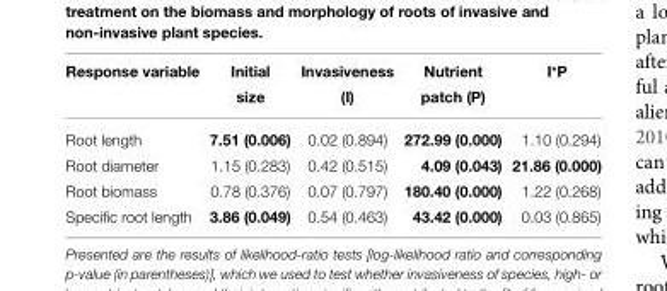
<table><thead><tr><td>Response variable</td><td>Initial size</td><td>Invasiveness (I)</td><td>Nutrient patch (P)</td><td>I*P</td></tr></thead><tbody><tr><td>Root length</td><td>7.51 (0.006)</td><td>0.02 (0.894)</td><td>272.99 (0.000)</td><td>1.10 (0.294)</td></tr><tr><td>Root diameter</td><td>1.15 (0.283)</td><td>0.42 (0.515)</td><td>4.09 (0.043)</td><td>21.86 (0.000)</td></tr><tr><td>Root biomass</td><td>0.78 (0.376)</td><td>0.07 (0.797)</td><td>180.40 (0.000)</td><td>1.22 (0.268)</td></tr><tr><td>Specific root length</td><td>3.86 (0.049)</td><td>0.54 (0.463)</td><td>43.42 (0.000)</td><td>0.03 (0.865)</td></tr></tbody></table>